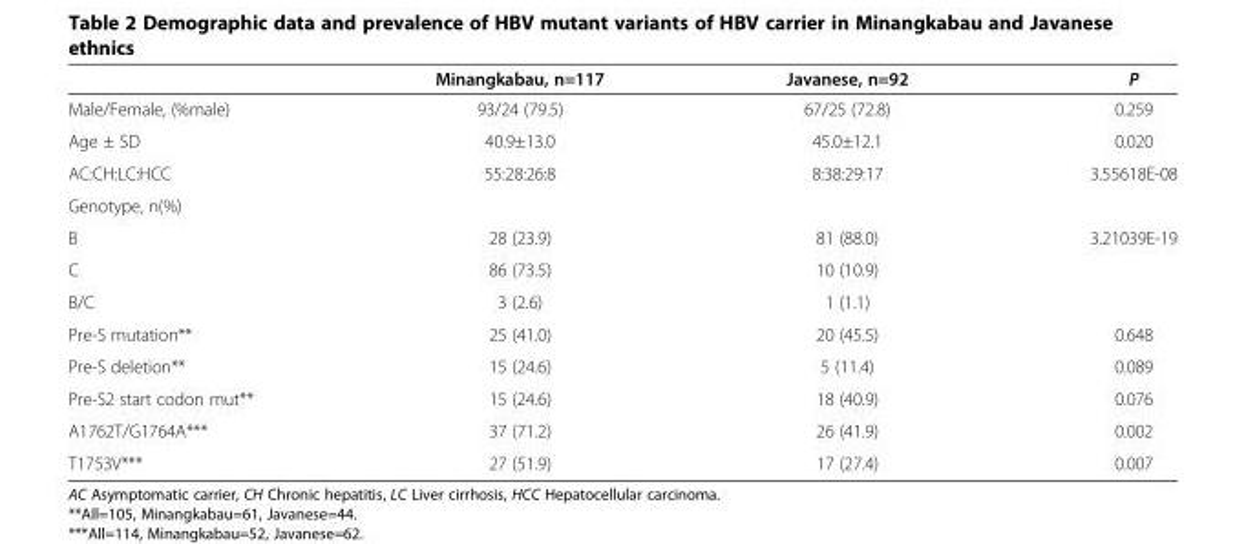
<table><thead><tr><td></td><td>Minangkabau, n=117</td><td>Javanese, n=92</td><td>P</td></tr></thead><tbody><tr><td>Male/Female, (%male)</td><td>93/24 (79.5)</td><td>67/25 (72.8)</td><td>0.259</td></tr><tr><td>Age ± SD</td><td>40.9±13.0</td><td>45.0±12.1</td><td>0.020</td></tr><tr><td>AC:CH:LC:HCC</td><td>55:28:26:8</td><td>8:38:29:17</td><td>3.55618E-08</td></tr><tr><td colspan="4">Genotype, n(%)</td></tr><tr><td>B</td><td>28 (23.9)</td><td>81 (88.0)</td><td>3.21039E-19</td></tr><tr><td>C</td><td>86 (73.5)</td><td>10 (10.9)</td><td></td></tr><tr><td>B/C</td><td>3 (2.6)</td><td>1 (1.1)</td><td></td></tr><tr><td>Pre-S mutation**</td><td>25 (41.0)</td><td>20 (45.5)</td><td>0.648</td></tr><tr><td>Pre-S deletion**</td><td>15 (24.6)</td><td>5 (11.4)</td><td>0.089</td></tr><tr><td>Pre-S2 start codon mut**</td><td>15 (24.6)</td><td>18 (40.9)</td><td>0.076</td></tr><tr><td>A1762T/G1764A***</td><td>37 (71.2)</td><td>26 (41.9)</td><td>0.002</td></tr><tr><td>T1753V***</td><td>27 (51.9)</td><td>17 (27.4)</td><td>0.007</td></tr></tbody></table>